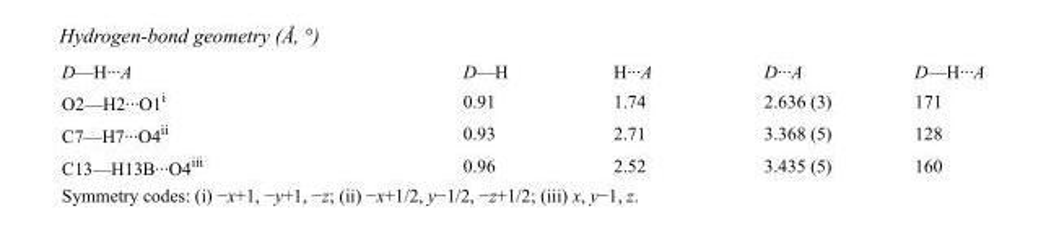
<table><tbody><tr><td>D—H···A</td><td>D—H</td><td>H···A</td><td>D···A</td><td>D—H···A</td></tr><tr><td>O2—H2···O1<sup>i</sup></td><td>0.91</td><td>1.74</td><td>2.636 (3)</td><td>171</td></tr><tr><td>C7—H7···O4<sup>ii</sup></td><td>0.93</td><td>2.71</td><td>3.368 (5)</td><td>128</td></tr><tr><td>C13—H13B···O4<sup>iii</sup></td><td>0.96</td><td>2.52</td><td>3.435 (5)</td><td>160</td></tr></tbody></table>